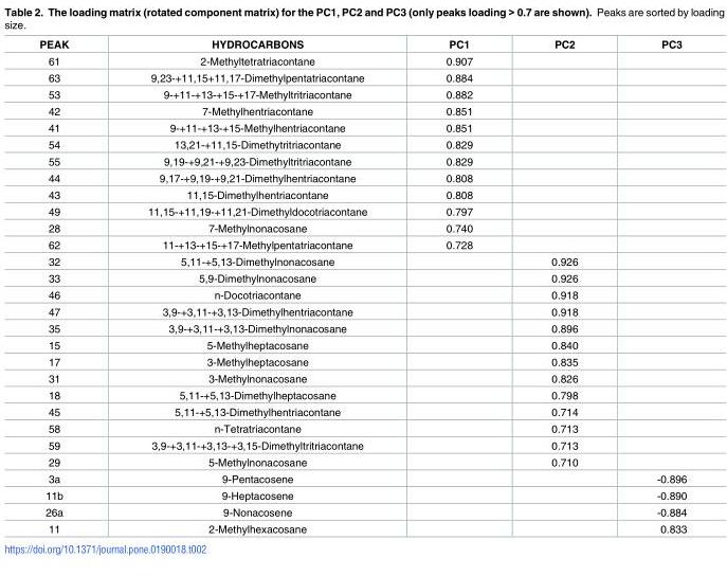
<table><thead><tr><td>PEAK</td><td>HYDROCARBONS</td><td>PC1</td><td>PC2</td><td>PC3</td></tr></thead><tbody><tr><td>61</td><td>2-Methyltetratriacontane</td><td>0.907</td><td></td><td></td></tr><tr><td>63</td><td>9,23-+11,15+11,17-Dimethylpentatriacontane</td><td>0.884</td><td></td><td></td></tr><tr><td>53</td><td>9-+11-+13-+15-+17-Methyltritriacontane</td><td>0.882</td><td></td><td></td></tr><tr><td>42</td><td>7-Methylhentriacontane</td><td>0.851</td><td></td><td></td></tr><tr><td>41</td><td>9-+11-+13-+15-Methylhentriacontane</td><td>0.851</td><td></td><td></td></tr><tr><td>54</td><td>13,21-+11,15-Dimethytritriacontane</td><td>0.829</td><td></td><td></td></tr><tr><td>55</td><td>9,19-+9,21-+9,23-Dimethyltritriacontane</td><td>0.829</td><td></td><td></td></tr><tr><td>44</td><td>9,17-+9,19-+9,21-Dimethylhentriacontane</td><td>0.808</td><td></td><td></td></tr><tr><td>43</td><td>11,15-Dimethylhentriacontane</td><td>0.808</td><td></td><td></td></tr><tr><td>49</td><td>11,15-+11,19-+11,21-Dimethyldocotriacontane</td><td>0.797</td><td></td><td></td></tr><tr><td>28</td><td>7-Methylnonacosane</td><td>0.740</td><td></td><td></td></tr><tr><td>62</td><td>11-+13-+15-+17-Methylpentatriacontane</td><td>0.728</td><td></td><td></td></tr><tr><td>32</td><td>5,11-+5,13-Dimethylnonacosane</td><td></td><td>0.926</td><td></td></tr><tr><td>33</td><td>5,9-Dimethylnonacosane</td><td></td><td>0.926</td><td></td></tr><tr><td>46</td><td>n-Docotriacontane</td><td></td><td>0.918</td><td></td></tr><tr><td>47</td><td>3,9-+3,11-+3,13-Dimethylhentriacontane</td><td></td><td>0.918</td><td></td></tr><tr><td>35</td><td>3,9-+3,11-+3,13-Dimethylnonacosane</td><td></td><td>0.896</td><td></td></tr><tr><td>15</td><td>5-Methylheptacosane</td><td></td><td>0.840</td><td></td></tr><tr><td>17</td><td>3-Methylheptacosane</td><td></td><td>0.835</td><td></td></tr><tr><td>31</td><td>3-Methylnonacosane</td><td></td><td>0.826</td><td></td></tr><tr><td>18</td><td>5,11-+5,13-Dimethylheptacosane</td><td></td><td>0.798</td><td></td></tr><tr><td>45</td><td>5,11-+5,13-Dimethylhentriacontane</td><td></td><td>0.714</td><td></td></tr><tr><td>58</td><td>n-Tetratriacontane</td><td></td><td>0.713</td><td></td></tr><tr><td>59</td><td>3,9-+3,11-+3,13-+3,15-Dimethyltritriacontane</td><td></td><td>0.713</td><td></td></tr><tr><td>29</td><td>5-Methylnonacosane</td><td></td><td>0.710</td><td></td></tr><tr><td>3a</td><td>9-Pentacosene</td><td></td><td></td><td>-0.896</td></tr><tr><td>11b</td><td>9-Heptacosene</td><td></td><td></td><td>-0.890</td></tr><tr><td>26a</td><td>9-Nonacosene</td><td></td><td></td><td>-0.884</td></tr><tr><td>11</td><td>2-Methylhexacosane</td><td></td><td></td><td>0.833</td></tr></tbody></table>